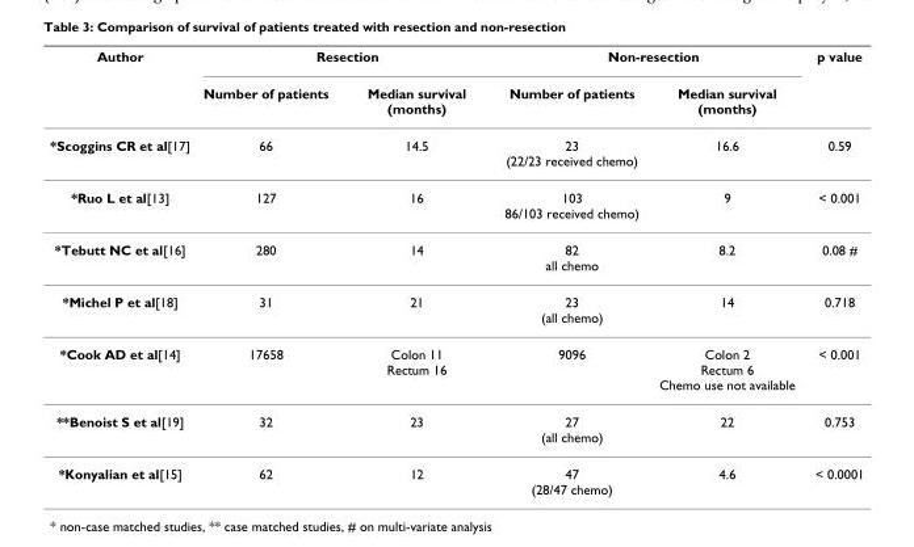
<table><thead><tr><td rowspan="2">Author</td><td colspan="2">Resection</td><td colspan="2">Non-resection</td><td rowspan="2">p value</td></tr><tr><td>Number of patients</td><td>Median survival (months)</td><td>Number of patients</td><td>Median survival (months)</td></tr></thead><tbody><tr><td>*Scoggins CR et al[17]</td><td>66</td><td>14.5</td><td>23 (22/23 received chemo)</td><td>16.6</td><td>0.59</td></tr><tr><td>*Ruo L et al[13]</td><td>127</td><td>16</td><td>103 86/103 received chemo)</td><td>9</td><td>&lt; 0.001</td></tr><tr><td>*Tebutt NC et al[16]</td><td>280</td><td>14</td><td>82 all chemo</td><td>8.2</td><td>0.08 #</td></tr><tr><td>*Michel P et al[18]</td><td>31</td><td>21</td><td>23 (all chemo)</td><td>14</td><td>0.718</td></tr><tr><td>*Cook AD et al[14]</td><td>17658</td><td>Colon 11 Rectum 16</td><td>9096</td><td>Colon 2 Rectum 6 Chemo use not available</td><td>&lt; 0.001</td></tr><tr><td>**Benoist S et al[19]</td><td>32</td><td>23</td><td>27 (all chemo)</td><td>22</td><td>0.753</td></tr><tr><td>*Konyalian et al[15]</td><td>62</td><td>12</td><td>47 (28/47 chemo)</td><td>4.6</td><td>&lt; 0.0001</td></tr></tbody></table>